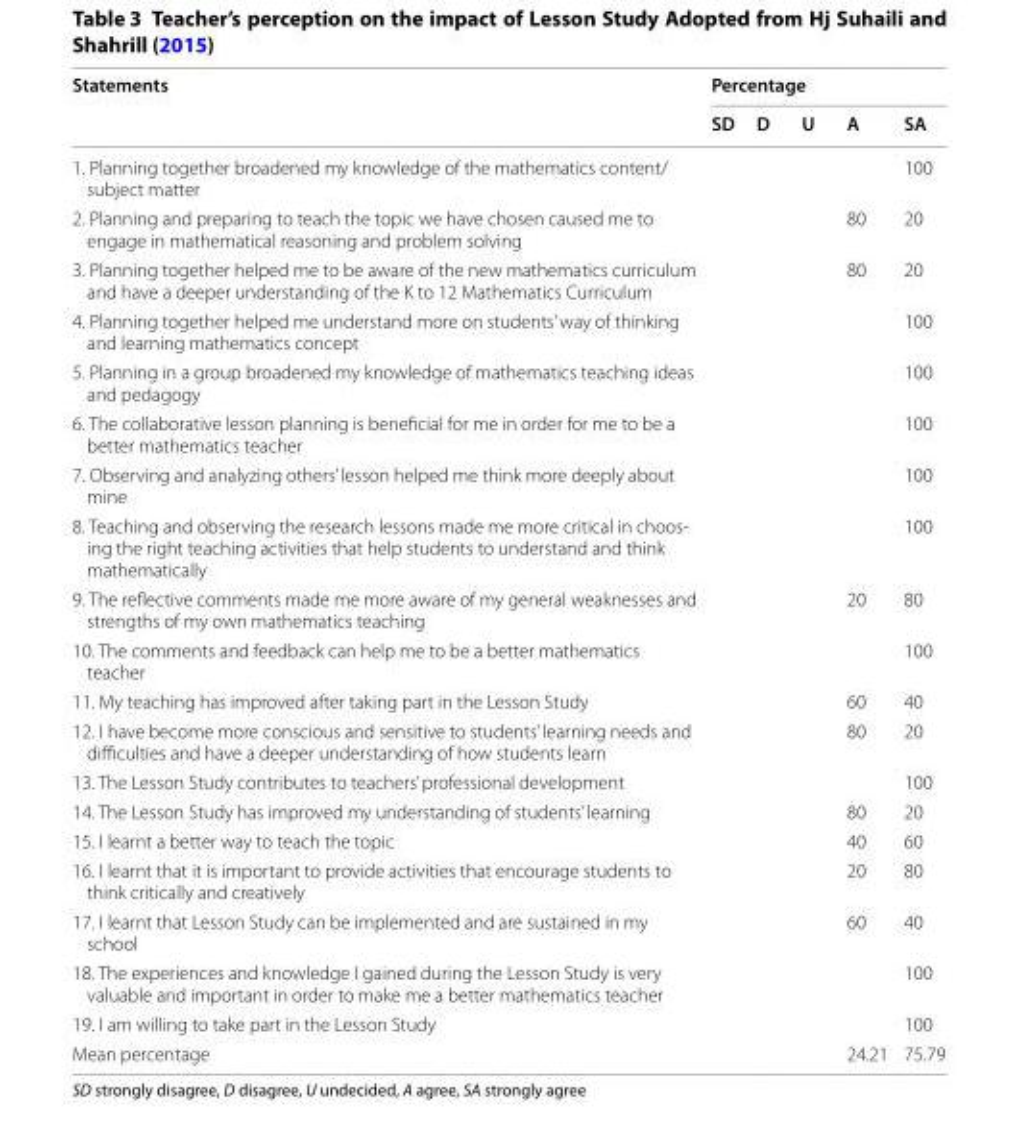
<table><thead><tr><td rowspan="2">Statements</td><td colspan="5">Percentage</td></tr><tr><td>SD</td><td>D</td><td>U</td><td>A</td><td>SA</td></tr></thead><tbody><tr><td>1. Planning together broadened my knowledge of the mathematics content/ subject matter</td><td></td><td></td><td></td><td></td><td>100</td></tr><tr><td>2. Planning and preparing to teach the topic we have chosen caused me to engage in mathematical reasoning and problem solving</td><td></td><td></td><td></td><td>80</td><td>20</td></tr><tr><td>3. Planning together helped me to be aware of the new mathematics curriculum and have a deeper understanding of the K to 12 Mathematics Curriculum</td><td></td><td></td><td></td><td>80</td><td>20</td></tr><tr><td>4. Planning together helped me understand more on students’ way of thinking and learning mathematics concept</td><td></td><td></td><td></td><td></td><td>100</td></tr><tr><td>5. Planning in a group broadened my knowledge of mathematics teaching ideas and pedagogy</td><td></td><td></td><td></td><td></td><td>100</td></tr><tr><td>6. The collaborative lesson planning is beneficial for me in order for me to be a better mathematics teacher</td><td></td><td></td><td></td><td></td><td>100</td></tr><tr><td>7. Observing and analyzing others’ lesson helped me think more deeply about mine</td><td></td><td></td><td></td><td></td><td>100</td></tr><tr><td>8. Teaching and observing the research lessons made me more critical in choos- ing the right teaching activities that help students to understand and think mathematically</td><td></td><td></td><td></td><td></td><td>100</td></tr><tr><td>9. The reflective comments made me more aware of my general weaknesses and strengths of my own mathematics teaching</td><td></td><td></td><td></td><td>20</td><td>80</td></tr><tr><td>10. The comments and feedback can help me to be a better mathematics teacher</td><td></td><td></td><td></td><td></td><td>100</td></tr><tr><td>11. My teaching has improved after taking part in the Lesson Study</td><td></td><td></td><td></td><td>60</td><td>40</td></tr><tr><td>12. I have become more conscious and sensitive to students’ learning needs and difficulties and have a deeper understanding of how students learn</td><td></td><td></td><td></td><td>80</td><td>20</td></tr><tr><td>13. The Lesson Study contributes to teachers’ professional development</td><td></td><td></td><td></td><td></td><td>100</td></tr><tr><td>14. The Lesson Study has improved my understanding of students’ learning</td><td></td><td></td><td></td><td>80</td><td>20</td></tr><tr><td>15. I learnt a better way to teach the topic</td><td></td><td></td><td></td><td>40</td><td>60</td></tr><tr><td>16. I learnt that it is important to provide activities that encourage students to think critically and creatively</td><td></td><td></td><td></td><td>20</td><td>80</td></tr><tr><td>17. I learnt that Lesson Study can be implemented and are sustained in my school</td><td></td><td></td><td></td><td>60</td><td>40</td></tr><tr><td>18. The experiences and knowledge I gained during the Lesson Study is very valuable and important in order to make me a better mathematics teacher</td><td></td><td></td><td></td><td></td><td>100</td></tr><tr><td>19. I am willing to take part in the Lesson Study</td><td></td><td></td><td></td><td></td><td>100</td></tr><tr><td>Mean percentage</td><td></td><td></td><td></td><td>24.21</td><td>75.79</td></tr></tbody></table>